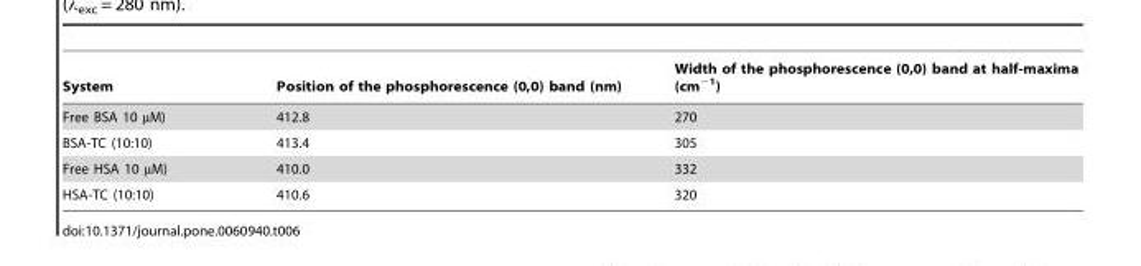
<table><thead><tr><td>System</td><td>Position of the phosphorescence (0,0) band (nm)</td><td>Width of the phosphorescence (0,0) band at half-maxima (cm<sup>−1</sup>)</td></tr></thead><tbody><tr><td>Free BSA 10 µM)</td><td>412.8</td><td>270</td></tr><tr><td>BSA-TC (10:10)</td><td>413.4</td><td>305</td></tr><tr><td>Free HSA 10 µM)</td><td>410.0</td><td>332</td></tr><tr><td>HSA-TC (10:10)</td><td>410.6</td><td>320</td></tr></tbody></table>